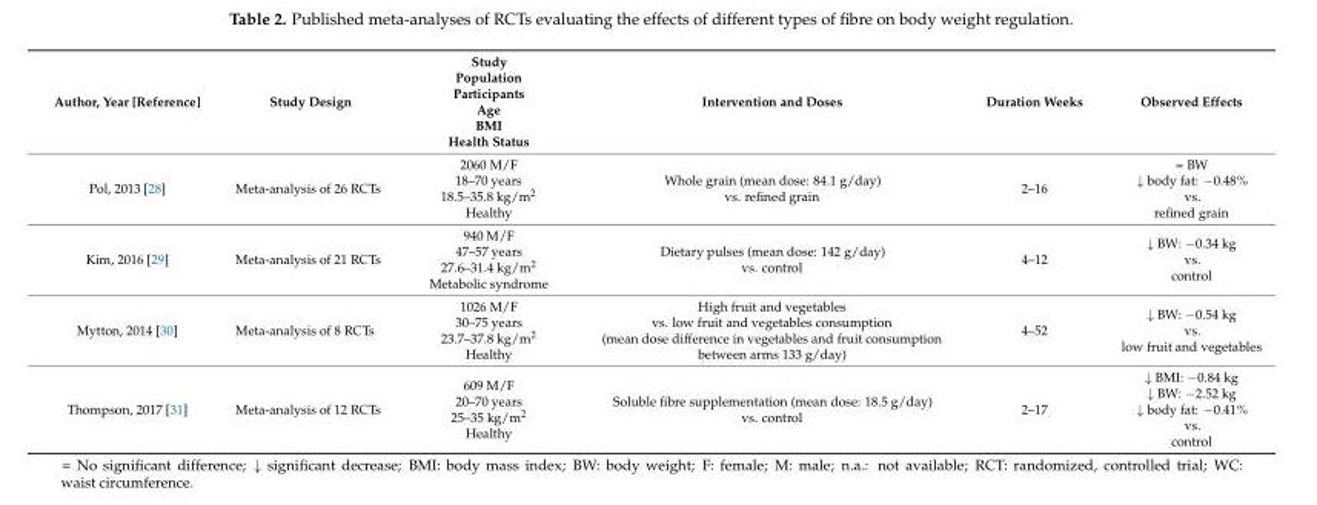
<table><thead><tr><td>Author, Year [Reference]</td><td>Study Design</td><td>Study Population Participants Age BMI Health Status</td><td>Intervention and Doses</td><td>Duration Weeks</td><td>Observed Effects</td></tr></thead><tbody><tr><td>Pol, 2013 [28]</td><td>Meta-analysis of 26 RCTs</td><td>2060 M/F 18–70 years 18.5–35.8 kg/m<sup>2</sup> Healthy</td><td>Whole grain (mean dose: 84.1 g/day) vs. refined grain</td><td>2–16</td><td>= BW ↓ body fat: −0.48% vs. refined grain</td></tr><tr><td>Kim, 2016 [29]</td><td>Meta-analysis of 21 RCTs</td><td>940 M/F 47–57 years 27.6–31.4 kg/m<sup>2</sup> Metabolic syndrome</td><td>Dietary pulses (mean dose: 142 g/day) vs. control</td><td>4–12</td><td>↓ BW: −0.34 kg vs. control</td></tr><tr><td>Mytton, 2014 [30]</td><td>Meta-analysis of 8 RCTs</td><td>1026 M/F 30–75 years 23.7–37.8 kg/m<sup>2</sup> Healthy</td><td>High fruit and vegetables vs. low fruit and vegetables consumption (mean dose difference in vegetables and fruit consumption between arms 133 g/day)</td><td>4–52</td><td>↓ BW: −0.54 kg vs. low fruit and vegetables</td></tr><tr><td>Thompson, 2017 [31]</td><td>Meta-analysis of 12 RCTs</td><td>609 M/F 20–70 years 25–35 kg/m<sup>2</sup> Healthy</td><td>Soluble fibre supplementation (mean dose: 18.5 g/day) vs. control</td><td>2–17</td><td>↓ BMI: −0.84 kg ↓ BW: −2.52 kg ↓ body fat: −0.41% vs. control</td></tr></tbody></table>